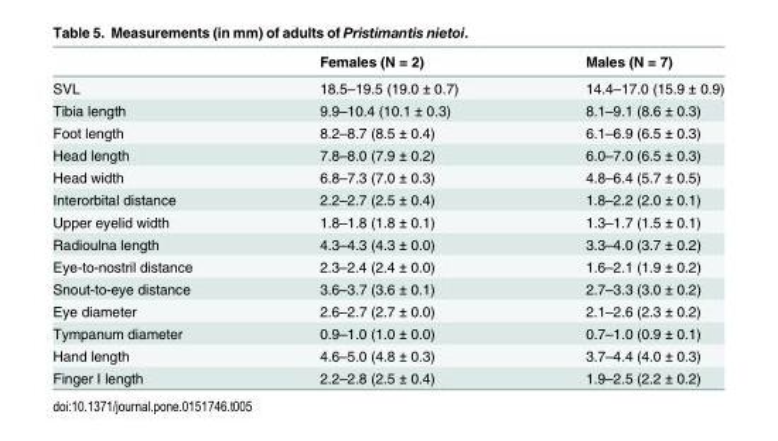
<table><thead><tr><td></td><td>Females (N = 2)</td><td>Males (N = 7)</td></tr></thead><tbody><tr><td>SVL</td><td>18.5–19.5 (19.0 ± 0.7)</td><td>14.4–17.0 (15.9 ± 0.9)</td></tr><tr><td>Tibia length</td><td>9.9–10.4 (10.1 ± 0.3)</td><td>8.1–9.1 (8.6 ± 0.3)</td></tr><tr><td>Foot length</td><td>8.2–8.7 (8.5 ± 0.4)</td><td>6.1–6.9 (6.5 ± 0.3)</td></tr><tr><td>Head length</td><td>7.8–8.0 (7.9 ± 0.2)</td><td>6.0–7.0 (6.5 ± 0.3)</td></tr><tr><td>Head width</td><td>6.8–7.3 (7.0 ± 0.3)</td><td>4.8–6.4 (5.7 ± 0.5)</td></tr><tr><td>Interorbital distance</td><td>2.2–2.7 (2.5 ± 0.4)</td><td>1.8–2.2 (2.0 ± 0.1)</td></tr><tr><td>Upper eyelid width</td><td>1.8–1.8 (1.8 ± 0.1)</td><td>1.3–1.7 (1.5 ± 0.1)</td></tr><tr><td>Radioulna length</td><td>4.3–4.3 (4.3 ± 0.0)</td><td>3.3–4.0 (3.7 ± 0.2)</td></tr><tr><td>Eye-to-nostril distance</td><td>2.3–2.4 (2.4 ± 0.0)</td><td>1.6–2.1 (1.9 ± 0.2)</td></tr><tr><td>Snout-to-eye distance</td><td>3.6–3.7 (3.6 ± 0.1)</td><td>2.7–3.3 (3.0 ± 0.2)</td></tr><tr><td>Eye diameter</td><td>2.6–2.7 (2.7 ± 0.0)</td><td>2.1–2.6 (2.3 ± 0.2)</td></tr><tr><td>Tympanum diameter</td><td>0.9–1.0 (1.0 ± 0.0)</td><td>0.7–1.0 (0.9 ± 0.1)</td></tr><tr><td>Hand length</td><td>4.6–5.0 (4.8 ± 0.3)</td><td>3.7–4.4 (4.0 ± 0.3)</td></tr><tr><td>Finger I length</td><td>2.2–2.8 (2.5 ± 0.4)</td><td>1.9–2.5 (2.2 ± 0.2)</td></tr></tbody></table>